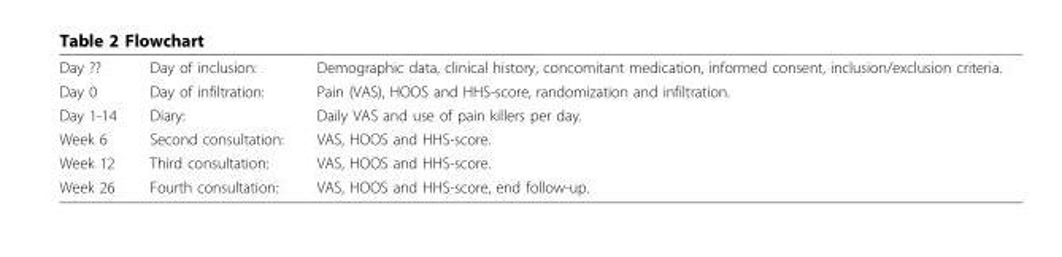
<table><tbody><tr><td>Day ??</td><td>Day of inclusion:</td><td>Demographic data, clinical history, concomitant medication, informed consent, inclusion/exclusion criteria.</td></tr><tr><td>Day 0</td><td>Day of infiltration:</td><td>Pain (VAS), HOOS and HHS-score, randomization and infiltration.</td></tr><tr><td>Day 1-14</td><td>Diary:</td><td>Daily VAS and use of pain killers per day.</td></tr><tr><td>Week 6</td><td>Second consultation:</td><td>VAS, HOOS and HHS-score.</td></tr><tr><td>Week 12</td><td>Third consultation:</td><td>VAS, HOOS and HHS-score.</td></tr><tr><td>Week 26</td><td>Fourth consultation:</td><td>VAS, HOOS and HHS-score, end follow-up.</td></tr></tbody></table>